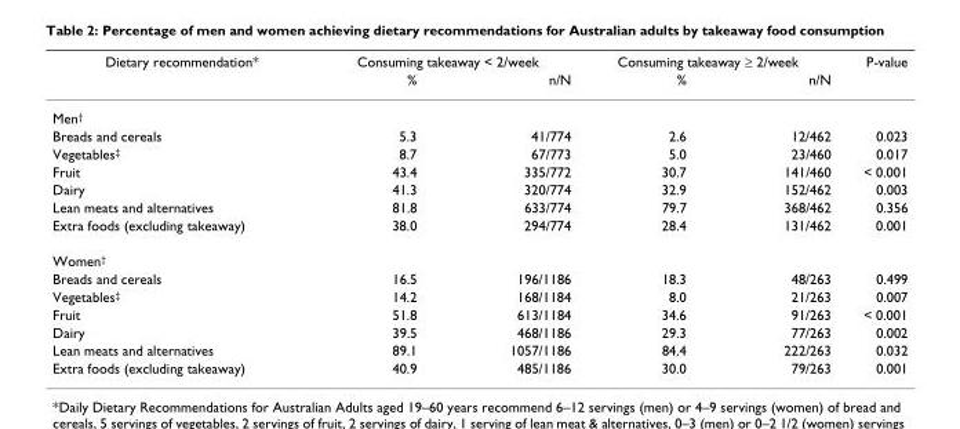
<table><thead><tr><td rowspan="2">Dietary recommendation*</td><td colspan="2">Consuming takeaway &lt; 2/week</td><td colspan="2">Consuming takeaway ≥ 2/week</td><td rowspan="2">P-value</td></tr><tr><td>%</td><td>n/N</td><td>%</td><td>n/N</td></tr></thead><tbody><tr><td colspan="6">Men<sup>†</sup></td></tr><tr><td>Breads and cereals</td><td>5.3</td><td>41/774</td><td>2.6</td><td>12/462</td><td>0.023</td></tr><tr><td>Vegetables<sup>‡</sup></td><td>8.7</td><td>67/773</td><td>5.0</td><td>23/460</td><td>0.017</td></tr><tr><td>Fruit</td><td>43.4</td><td>335/772</td><td>30.7</td><td>141/460</td><td>&lt; 0.001</td></tr><tr><td>Dairy</td><td>41.3</td><td>320/774</td><td>32.9</td><td>152/462</td><td>0.003</td></tr><tr><td>Lean meats and alternatives</td><td>81.8</td><td>633/774</td><td>79.7</td><td>368/462</td><td>0.356</td></tr><tr><td>Extra foods (excluding takeaway)</td><td>38.0</td><td>294/774</td><td>28.4</td><td>131/462</td><td>0.001</td></tr><tr><td colspan="6">Women<sup>†</sup></td></tr><tr><td>Breads and cereals</td><td>16.5</td><td>196/1186</td><td>18.3</td><td>48/263</td><td>0.499</td></tr><tr><td>Vegetables<sup>‡</sup></td><td>14.2</td><td>168/1184</td><td>8.0</td><td>21/263</td><td>0.007</td></tr><tr><td>Fruit</td><td>51.8</td><td>613/1184</td><td>34.6</td><td>91/263</td><td>&lt; 0.001</td></tr><tr><td>Dairy</td><td>39.5</td><td>468/1186</td><td>29.3</td><td>77/263</td><td>0.002</td></tr><tr><td>Lean meats and alternatives</td><td>89.1</td><td>1057/1186</td><td>84.4</td><td>222/263</td><td>0.032</td></tr><tr><td>Extra foods (excluding takeaway)</td><td>40.9</td><td>485/1186</td><td>30.0</td><td>79/263</td><td>0.001</td></tr></tbody></table>